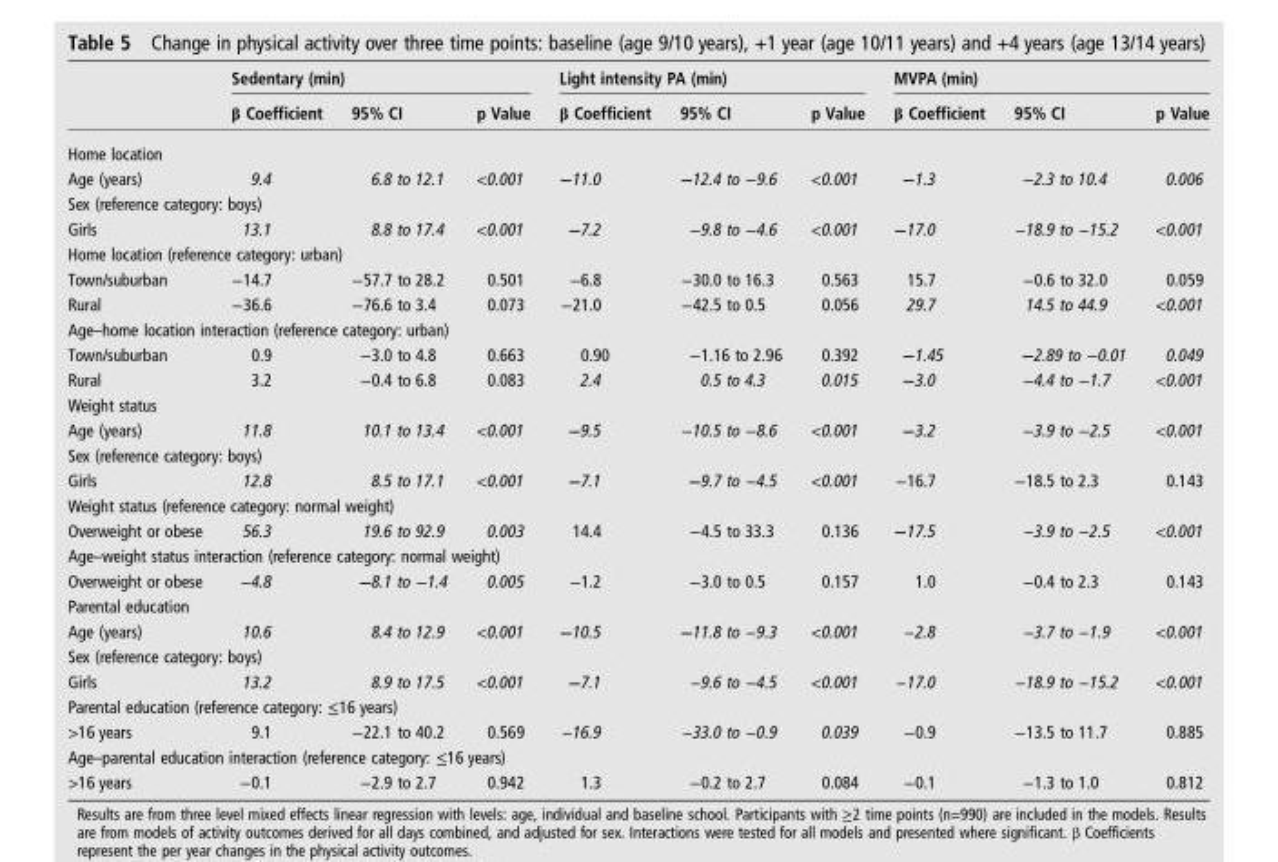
<table><thead><tr><td rowspan="2"></td><td colspan="3">Sedentary (min)</td><td colspan="3">Light intensity PA (min)</td><td colspan="3">MVPA (min)</td></tr><tr><td>β Coefficient</td><td>95% CI</td><td>p Value</td><td>β Coefficient</td><td>95% CI</td><td>p Value</td><td>β Coefficient</td><td>95% CI</td><td>p Value</td></tr></thead><tbody><tr><td colspan="10">Home location</td></tr><tr><td>Age (years)</td><td>9.4</td><td>6.8 to 12.1</td><td>&lt;0.001</td><td>−11.0</td><td>−12.4 to −9.6</td><td>&lt;0.001</td><td>−1.3</td><td>−2.3 to 10.4</td><td>0.006</td></tr><tr><td colspan="10">Sex (reference category: boys)</td></tr><tr><td>Girls</td><td>13.1</td><td>8.8 to 17.4</td><td>&lt;0.001</td><td>−7.2</td><td>−9.8 to −4.6</td><td>&lt;0.001</td><td>−17.0</td><td>−18.9 to −15.2</td><td>&lt;0.001</td></tr><tr><td colspan="10">Home location (reference category: urban)</td></tr><tr><td>Town/suburban</td><td>−14.7</td><td>−57.7 to 28.2</td><td>0.501</td><td>−6.8</td><td>−30.0 to 16.3</td><td>0.563</td><td>15.7</td><td>−0.6 to 32.0</td><td>0.059</td></tr><tr><td>Rural</td><td>−36.6</td><td>−76.6 to 3.4</td><td>0.073</td><td>−21.0</td><td>−42.5 to 0.5</td><td>0.056</td><td>29.7</td><td>14.5 to 44.9</td><td>&lt;0.001</td></tr><tr><td colspan="10">Age–home location interaction (reference category: urban)</td></tr><tr><td>Town/suburban</td><td>0.9</td><td>−3.0 to 4.8</td><td>0.663</td><td>0.90</td><td>−1.16 to 2.96</td><td>0.392</td><td>−1.45</td><td>−2.89 to −0.01</td><td>0.049</td></tr><tr><td>Rural</td><td>3.2</td><td>−0.4 to 6.8</td><td>0.083</td><td>2.4</td><td>0.5 to 4.3</td><td>0.015</td><td>−3.0</td><td>−4.4 to −1.7</td><td>&lt;0.001</td></tr><tr><td colspan="10">Weight status</td></tr><tr><td>Age (years)</td><td>11.8</td><td>10.1 to 13.4</td><td>&lt;0.001</td><td>−9.5</td><td>−10.5 to −8.6</td><td>&lt;0.001</td><td>−3.2</td><td>−3.9 to −2.5</td><td>&lt;0.001</td></tr><tr><td colspan="10">Sex (reference category: boys)</td></tr><tr><td>Girls</td><td>12.8</td><td>8.5 to 17.1</td><td>&lt;0.001</td><td>−7.1</td><td>−9.7 to −4.5</td><td>&lt;0.001</td><td>−16.7</td><td>−18.5 to 2.3</td><td>0.143</td></tr><tr><td colspan="10">Weight status (reference category: normal weight)</td></tr><tr><td>Overweight or obese</td><td>56.3</td><td>19.6 to 92.9</td><td>0.003</td><td>14.4</td><td>−4.5 to 33.3</td><td>0.136</td><td>−17.5</td><td>−3.9 to −2.5</td><td>&lt;0.001</td></tr><tr><td colspan="10">Age–weight status interaction (reference category: normal weight)</td></tr><tr><td>Overweight or obese</td><td>−4.8</td><td>−8.1 to −1.4</td><td>0.005</td><td>−1.2</td><td>−3.0 to 0.5</td><td>0.157</td><td>1.0</td><td>−0.4 to 2.3</td><td>0.143</td></tr><tr><td colspan="10">Parental education</td></tr><tr><td>Age (years)</td><td>10.6</td><td>8.4 to 12.9</td><td>&lt;0.001</td><td>−10.5</td><td>−11.8 to −9.3</td><td>&lt;0.001</td><td>−2.8</td><td>−3.7 to −1.9</td><td>&lt;0.001</td></tr><tr><td colspan="10">Sex (reference category: boys)</td></tr><tr><td>Girls</td><td>13.2</td><td>8.9 to 17.5</td><td>&lt;0.001</td><td>−7.1</td><td>−9.6 to −4.5</td><td>&lt;0.001</td><td>−17.0</td><td>−18.9 to −15.2</td><td>&lt;0.001</td></tr><tr><td colspan="10">Parental education (reference category: ≤16 years)</td></tr><tr><td>&gt;16 years</td><td>9.1</td><td>−22.1 to 40.2</td><td>0.569</td><td>−16.9</td><td>−33.0 to −0.9</td><td>0.039</td><td>−0.9</td><td>−13.5 to 11.7</td><td>0.885</td></tr><tr><td colspan="10">Age–parental education interaction (reference category: ≤16 years)</td></tr><tr><td>&gt;16 years</td><td>−0.1</td><td>−2.9 to 2.7</td><td>0.942</td><td>1.3</td><td>−0.2 to 2.7</td><td>0.084</td><td>−0.1</td><td>−1.3 to 1.0</td><td>0.812</td></tr></tbody></table>